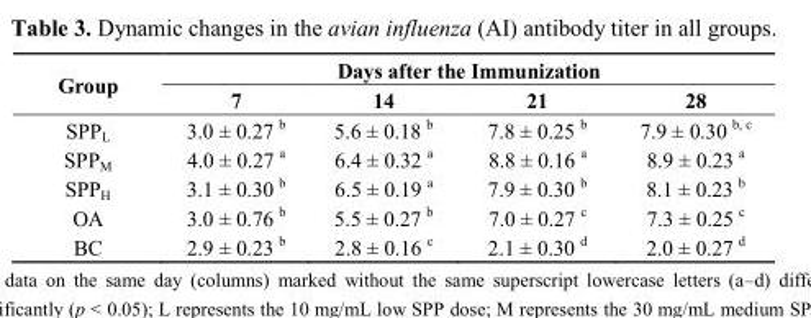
<table><thead><tr><td rowspan="2">Group</td><td colspan="4">Days after the Immunization</td></tr><tr><td>7</td><td>14</td><td>21</td><td>28</td></tr></thead><tbody><tr><td>SPP<sub>L</sub></td><td>3.0 ± 0.27 <sup>b</sup></td><td>5.6 ± 0.18 <sup>b</sup></td><td>7.8 ± 0.25 <sup>b</sup></td><td>7.9 ± 0.30 <sup>b, c</sup></td></tr><tr><td>SPP<sub>M</sub></td><td>4.0 ± 0.27 <sup>a</sup></td><td>6.4 ± 0.32 <sup>a</sup></td><td>8.8 ± 0.16 <sup>a</sup></td><td>8.9 ± 0.23 <sup>a</sup></td></tr><tr><td>SPP<sub>H</sub></td><td>3.1 ± 0.30 <sup>b</sup></td><td>6.5 ± 0.19 <sup>a</sup></td><td>7.9 ± 0.30 <sup>b</sup></td><td>8.1 ± 0.23 <sup>b</sup></td></tr><tr><td>OA</td><td>3.0 ± 0.76 <sup>b</sup></td><td>5.5 ± 0.27 <sup>b</sup></td><td>7.0 ± 0.27 <sup>c</sup></td><td>7.3 ± 0.25 <sup>c</sup></td></tr><tr><td>BC</td><td>2.9 ± 0.23 <sup>b</sup></td><td>2.8 ± 0.16 <sup>c</sup></td><td>2.1 ± 0.30 <sup>d</sup></td><td>2.0 ± 0.27 <sup>d</sup></td></tr></tbody></table>